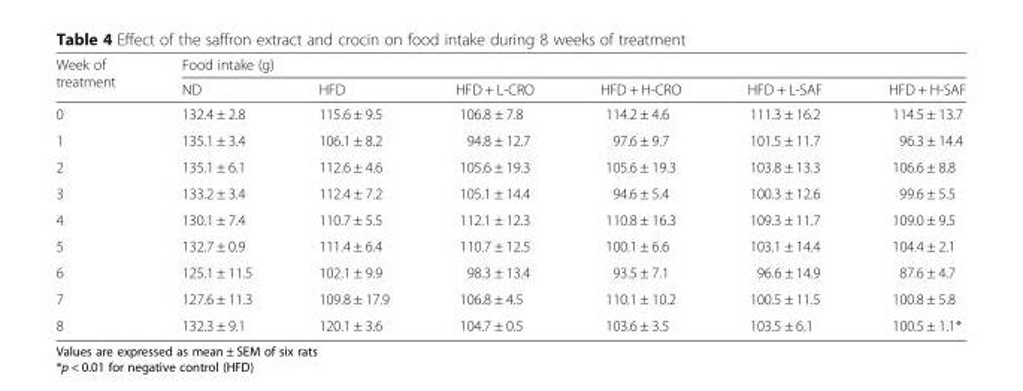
<table><thead><tr><td rowspan="2">Week of treatment</td><td colspan="6">Food intake (g)</td></tr><tr><td>ND</td><td>HFD</td><td>HFD + L-CRO</td><td>HFD + H-CRO</td><td>HFD + L-SAF</td><td>HFD + H-SAF</td></tr></thead><tbody><tr><td>0</td><td>132.4 ± 2.8</td><td>115.6 ± 9.5</td><td>106.8 ± 7.8</td><td>114.2 ± 4.6</td><td>111.3 ± 16.2</td><td>114.5 ± 13.7</td></tr><tr><td>1</td><td>135.1 ± 3.4</td><td>106.1 ± 8.2</td><td>94.8 ± 12.7</td><td>97.6 ± 9.7</td><td>101.5 ± 11.7</td><td>96.3 ± 14.4</td></tr><tr><td>2</td><td>135.1 ± 6.1</td><td>112.6 ± 4.6</td><td>105.6 ± 19.3</td><td>105.6 ± 19.3</td><td>103.8 ± 13.3</td><td>106.6 ± 8.8</td></tr><tr><td>3</td><td>133.2 ± 3.4</td><td>112.4 ± 7.2</td><td>105.1 ± 14.4</td><td>94.6 ± 5.4</td><td>100.3 ± 12.6</td><td>99.6 ± 5.5</td></tr><tr><td>4</td><td>130.1 ± 7.4</td><td>110.7 ± 5.5</td><td>112.1 ± 12.3</td><td>110.8 ± 16.3</td><td>109.3 ± 11.7</td><td>109.0 ± 9.5</td></tr><tr><td>5</td><td>132.7 ± 0.9</td><td>111.4 ± 6.4</td><td>110.7 ± 12.5</td><td>100.1 ± 6.6</td><td>103.1 ± 14.4</td><td>104.4 ± 2.1</td></tr><tr><td>6</td><td>125.1 ± 11.5</td><td>102.1 ± 9.9</td><td>98.3 ± 13.4</td><td>93.5 ± 7.1</td><td>96.6 ± 14.9</td><td>87.6 ± 4.7</td></tr><tr><td>7</td><td>127.6 ± 11.3</td><td>109.8 ± 17.9</td><td>106.8 ± 4.5</td><td>110.1 ± 10.2</td><td>100.5 ± 11.5</td><td>100.8 ± 5.8</td></tr><tr><td>8</td><td>132.3 ± 9.1</td><td>120.1 ± 3.6</td><td>104.7 ± 0.5</td><td>103.6 ± 3.5</td><td>103.5 ± 6.1</td><td>100.5 ± 1.1*</td></tr></tbody></table>